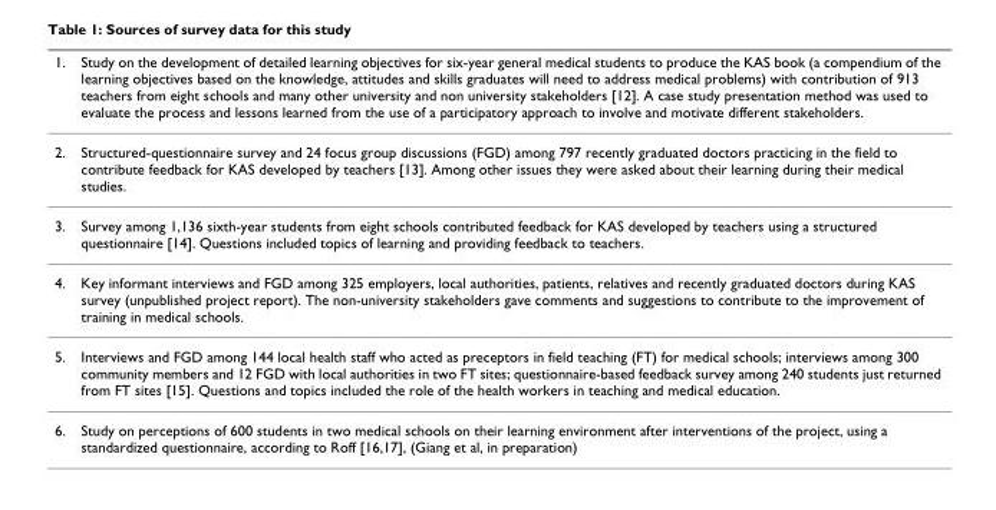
<table><thead><tr><td>1.</td><td>Study on the development of detailed learning objectives for six-year general medical students to produce the KAS book (a compendium of the learning objectives based on the knowledge, attitudes and skills graduates will need to address medical problems) with contribution of 913 teachers from eight schools and many other university and non university stakeholders [12]. A case study presentation method was used to evaluate the process and lessons learned from the use of a participatory approach to involve and motivate different stakeholders.</td></tr></thead><tbody><tr><td>2.</td><td>Structured-questionnaire survey and 24 focus group discussions (FGD) among 797 recently graduated doctors practicing in the field to contribute feedback for KAS developed by teachers [13]. Among other issues they were asked about their learning during their medical studies.</td></tr><tr><td>3.</td><td>Survey among 1,136 sixth-year students from eight schools contributed feedback for KAS developed by teachers using a structured questionnaire [14]. Questions included topics of learning and providing feedback to teachers.</td></tr><tr><td>4.</td><td>Key informant interviews and FGD among 325 employers, local authorities, patients, relatives and recently graduated doctors during KAS survey (unpublished project report). The non-university stakeholders gave comments and suggestions to contribute to the improvement of training in medical schools.</td></tr><tr><td>5.</td><td>Interviews and FGD among 144 local health staff who acted as preceptors in field teaching (FT) for medical schools; interviews among 300 community members and 12 FGD with local authorities in two FT sites; questionnaire-based feedback survey among 240 students just returned from FT sites [15]. Questions and topics included the role of the health workers in teaching and medical education.</td></tr><tr><td>6.</td><td>Study on perceptions of 600 students in two medical schools on their learning environment after interventions of the project, using a standardized questionnaire, according to Roff [16,17], (Giang et al, in preparation)</td></tr></tbody></table>